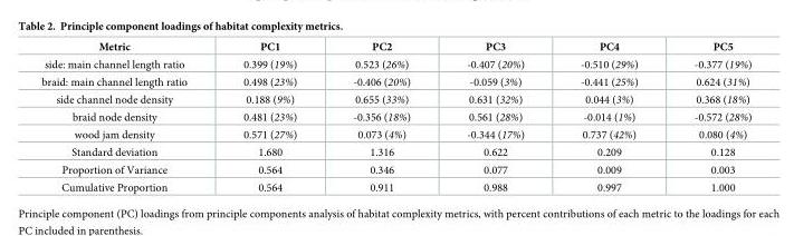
<table><thead><tr><td>Metric</td><td>PC1</td><td>PC2</td><td>PC3</td><td>PC4</td><td>PC5</td></tr></thead><tbody><tr><td>side: main channel length ratio</td><td>0.399 (19%)</td><td>0.523 (26%)</td><td>-0.407 (20%)</td><td>-0.510 (29%)</td><td>-0.377 (19%)</td></tr><tr><td>braid: main channel length ratio</td><td>0.498 (23%)</td><td>-0.406 (20%)</td><td>-0.059 (3%)</td><td>-0.441 (25%)</td><td>0.624 (31%)</td></tr><tr><td>side channel node density</td><td>0.188 (9%)</td><td>0.655 (33%)</td><td>0.631 (32%)</td><td>0.044 (3%)</td><td>0.368 (18%)</td></tr><tr><td>braid node density</td><td>0.481 (23%)</td><td>-0.356 (18%)</td><td>0.561 (28%)</td><td>-0.014 (1%)</td><td>-0.572 (28%)</td></tr><tr><td>wood jam density</td><td>0.571 (27%)</td><td>0.073 (4%)</td><td>-0.344 (17%)</td><td>0.737 (42%)</td><td>0.080 (4%)</td></tr><tr><td>Standard deviation</td><td>1.680</td><td>1.316</td><td>0.622</td><td>0.209</td><td>0.128</td></tr><tr><td>Proportion of Variance</td><td>0.564</td><td>0.346</td><td>0.077</td><td>0.009</td><td>0.003</td></tr><tr><td>Cumulative Proportion</td><td>0.564</td><td>0.911</td><td>0.988</td><td>0.997</td><td>1.000</td></tr></tbody></table>